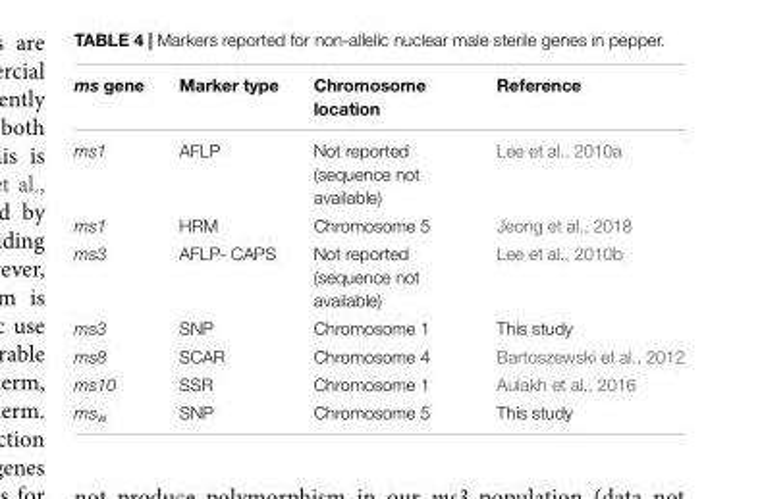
<table><thead><tr><td>ms gene</td><td>Marker type</td><td>Chromosome location</td><td>Reference</td></tr></thead><tbody><tr><td>ms1</td><td>AFLP</td><td>Not reported (sequence not available)</td><td>Lee et al., 2010a</td></tr><tr><td>ms1</td><td>HRM</td><td>Chromosome 5</td><td>Jeong et al., 2018</td></tr><tr><td>ms3</td><td>AFLP- CAPS</td><td>Not reported (sequence not available)</td><td>Lee et al., 2010b</td></tr><tr><td>ms3</td><td>SNP</td><td>Chromosome 1</td><td>This study</td></tr><tr><td>ms8</td><td>SCAR</td><td>Chromosome 4</td><td>Bartoszewski et al., 2012</td></tr><tr><td>ms10</td><td>SSR</td><td>Chromosome 1</td><td>Aulakh et al., 2016</td></tr><tr><td>ms<sub>w</sub></td><td>SNP</td><td>Chromosome 5</td><td>This study</td></tr></tbody></table>